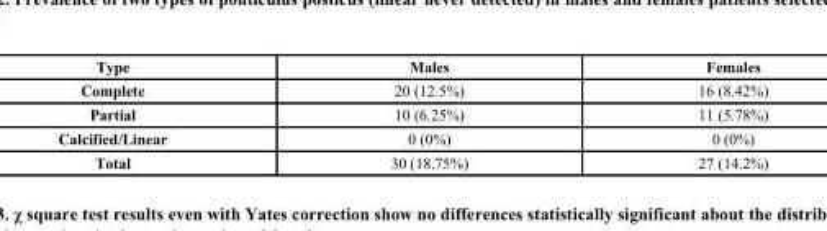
<table><thead><tr><td>Type</td><td>Males</td><td>Females</td></tr></thead><tbody><tr><td>Complete</td><td>20 (12.5%)</td><td>16 (8.42%)</td></tr><tr><td>Partial</td><td>10 (6.25%)</td><td>11 (5.78%)</td></tr><tr><td>Calcified/Linear</td><td>0 (0%)</td><td>0 (0%)</td></tr><tr><td>Total</td><td>30 (18.75%)</td><td>27 (14.2%)</td></tr></tbody></table>